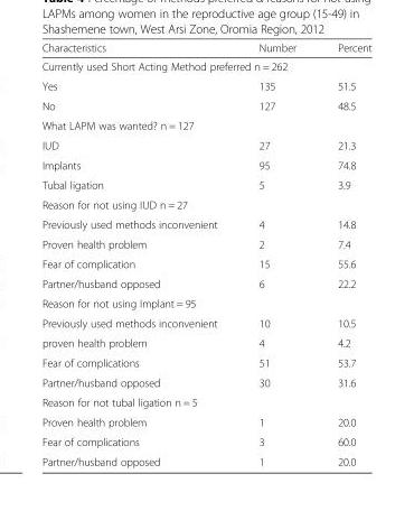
<table><thead><tr><td>Characteristics</td><td>Number</td><td>Percent</td></tr></thead><tbody><tr><td colspan="3">Currently used Short Acting Method preferred n = 262</td></tr><tr><td>Yes</td><td>135</td><td>51.5</td></tr><tr><td>No</td><td>127</td><td>48.5</td></tr><tr><td colspan="3">What LAPM was wanted? n = 127</td></tr><tr><td>IUD</td><td>27</td><td>21.3</td></tr><tr><td>Implants</td><td>95</td><td>74.8</td></tr><tr><td>Tubal ligation</td><td>5</td><td>3.9</td></tr><tr><td colspan="3">Reason for not using IUD n = 27</td></tr><tr><td>Previously used methods inconvenient</td><td>4</td><td>14.8</td></tr><tr><td>Proven health problem</td><td>2</td><td>7.4</td></tr><tr><td>Fear of complication</td><td>15</td><td>55.6</td></tr><tr><td>Partner/husband opposed</td><td>6</td><td>22.2</td></tr><tr><td colspan="3">Reason for not using Implant = 95</td></tr><tr><td>Previously used methods inconvenient</td><td>10</td><td>10.5</td></tr><tr><td>proven health problem</td><td>4</td><td>4.2</td></tr><tr><td>Fear of complications</td><td>51</td><td>53.7</td></tr><tr><td>Partner/husband opposed</td><td>30</td><td>31.6</td></tr><tr><td colspan="3">Reason for not tubal ligation n = 5</td></tr><tr><td>Proven health problem</td><td>1</td><td>20.0</td></tr><tr><td>Fear of complications</td><td>3</td><td>60.0</td></tr><tr><td>Partner/husband opposed</td><td>1</td><td>20.0</td></tr></tbody></table>